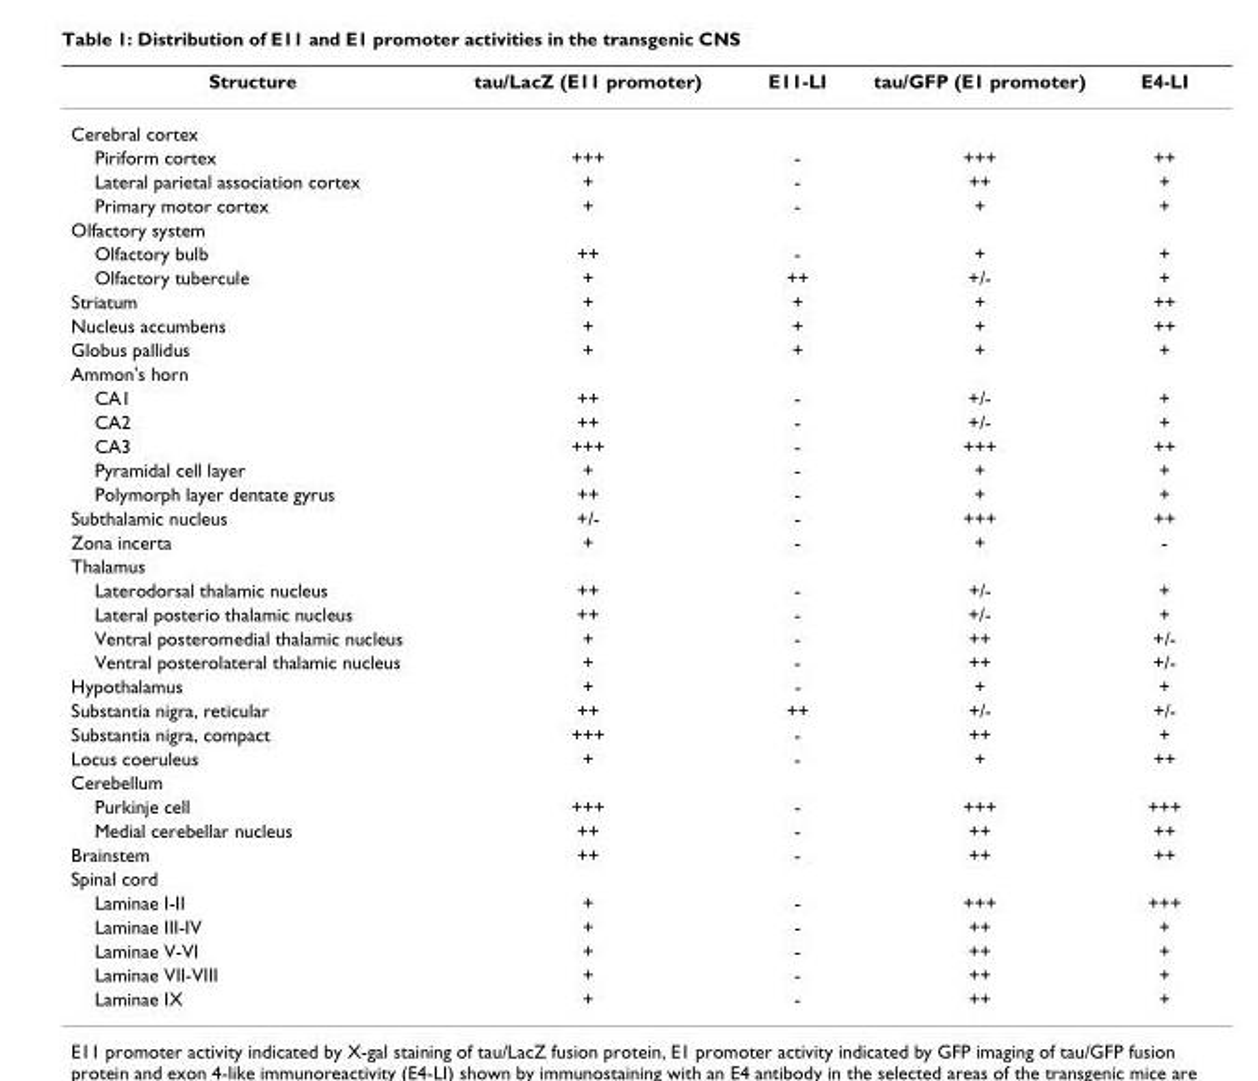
<table><thead><tr><td>Structure</td><td>tau/LacZ (E11 promoter)</td><td>E11-LI</td><td>tau/GFP (E1 promoter)</td><td>E4-LI</td></tr></thead><tbody><tr><td colspan="5">Cerebral cortex</td></tr><tr><td>Piriform cortex</td><td>+++</td><td>-</td><td>+++</td><td>++</td></tr><tr><td>Lateral parietal association cortex</td><td>+</td><td>-</td><td>++</td><td>+</td></tr><tr><td>Primary motor cortex</td><td>+</td><td>-</td><td>+</td><td>+</td></tr><tr><td colspan="5">Olfactory system</td></tr><tr><td>Olfactory bulb</td><td>++</td><td>-</td><td>+</td><td>+</td></tr><tr><td>Olfactory tubercule</td><td>+</td><td>++</td><td>+/-</td><td>+</td></tr><tr><td>Striatum</td><td>+</td><td>+</td><td>+</td><td>++</td></tr><tr><td>Nucleus accumbens</td><td>+</td><td>+</td><td>+</td><td>++</td></tr><tr><td>Globus pallidus</td><td>+</td><td>+</td><td>+</td><td>+</td></tr><tr><td colspan="5">Ammon&#x27;s horn</td></tr><tr><td>CA1</td><td>++</td><td>-</td><td>+/-</td><td>+</td></tr><tr><td>CA2</td><td>++</td><td>-</td><td>+/-</td><td>+</td></tr><tr><td>CA3</td><td>+++</td><td>-</td><td>+++</td><td>++</td></tr><tr><td>Pyramidal cell layer</td><td>+</td><td>-</td><td>+</td><td>+</td></tr><tr><td>Polymorph layer dentate gyrus</td><td>++</td><td>-</td><td>+</td><td>+</td></tr><tr><td>Subthalamic nucleus</td><td>+/-</td><td>-</td><td>+++</td><td>++</td></tr><tr><td>Zona incerta</td><td>+</td><td>-</td><td>+</td><td>-</td></tr><tr><td colspan="5">Thalamus</td></tr><tr><td>Laterodorsal thalamic nucleus</td><td>++</td><td>-</td><td>+/-</td><td>+</td></tr><tr><td>Lateral posterio thalamic nucleus</td><td>++</td><td>-</td><td>+/-</td><td>+</td></tr><tr><td>Ventral posteromedial thalamic nucleus</td><td>+</td><td>-</td><td>++</td><td>+/-</td></tr><tr><td>Ventral posterolateral thalamic nucleus</td><td>+</td><td>-</td><td>++</td><td>+/-</td></tr><tr><td>Hypothalamus</td><td>+</td><td>-</td><td>+</td><td>+</td></tr><tr><td>Substantia nigra, reticular</td><td>++</td><td>++</td><td>+/-</td><td>+/-</td></tr><tr><td>Substantia nigra, compact</td><td>+++</td><td>-</td><td>++</td><td>+</td></tr><tr><td>Locus coeruleus</td><td>+</td><td>-</td><td>+</td><td>++</td></tr><tr><td colspan="5">Cerebellum</td></tr><tr><td>Purkinje cell</td><td>+++</td><td>-</td><td>+++</td><td>+++</td></tr><tr><td>Medial cerebellar nucleus</td><td>++</td><td>-</td><td>++</td><td>++</td></tr><tr><td>Brainstem</td><td>++</td><td>-</td><td>++</td><td>++</td></tr><tr><td colspan="5">Spinal cord</td></tr><tr><td>Laminae I-II</td><td>+</td><td>-</td><td>+++</td><td>+++</td></tr><tr><td>Laminae III-IV</td><td>+</td><td>-</td><td>++</td><td>+</td></tr><tr><td>Laminae V-VI</td><td>+</td><td>-</td><td>++</td><td>+</td></tr><tr><td>Laminae VII-VIII</td><td>+</td><td>-</td><td>++</td><td>+</td></tr><tr><td>Laminae IX</td><td>+</td><td>-</td><td>++</td><td>+</td></tr></tbody></table>